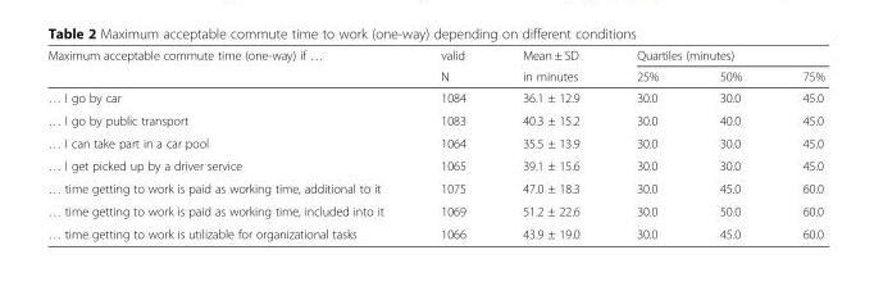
<table><thead><tr><td rowspan="2">Maximum acceptable commute time (one-way) if …</td><td rowspan="2">valid N</td><td rowspan="2">Mean ± SD in minutes</td><td colspan="3">Quartiles (minutes)</td></tr><tr><td>25%</td><td>50%</td><td>75%</td></tr></thead><tbody><tr><td>… I go by car</td><td>1084</td><td>36.1 ± 12.9</td><td>30.0</td><td>30.0</td><td>45.0</td></tr><tr><td>… I go by public transport</td><td>1083</td><td>40.3 ± 15.2</td><td>30.0</td><td>40.0</td><td>45.0</td></tr><tr><td>… I can take part in a car pool</td><td>1064</td><td>35.5 ± 13.9</td><td>30.0</td><td>30.0</td><td>45.0</td></tr><tr><td>… I get picked up by a driver service</td><td>1065</td><td>39.1 ± 15.6</td><td>30.0</td><td>30.0</td><td>45.0</td></tr><tr><td>… time getting to work is paid as working time, additional to it</td><td>1075</td><td>47.0 ± 18.3</td><td>30.0</td><td>45.0</td><td>60.0</td></tr><tr><td>… time getting to work is paid as working time, included into it</td><td>1069</td><td>51.2 ± 22.6</td><td>30.0</td><td>50.0</td><td>60.0</td></tr><tr><td>… time getting to work is utilizable for organizational tasks</td><td>1066</td><td>43.9 ± 19.0</td><td>30.0</td><td>45.0</td><td>60.0</td></tr></tbody></table>